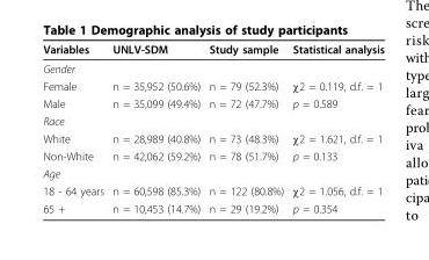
<table><thead><tr><td>Variables</td><td>UNLV-SDM</td><td>Study sample</td><td>Statistical analysis</td></tr></thead><tbody><tr><td colspan="4">Gender</td></tr><tr><td>Female</td><td>n = 35,952 (50.6%)</td><td>n = 79 (52.3%)</td><td>χ2 = 0.119, d.f. = 1</td></tr><tr><td>Male</td><td>n = 35,099 (49.4%)</td><td>n = 72 (47.7%)</td><td>p = 0.589</td></tr><tr><td colspan="4">Race</td></tr><tr><td>White</td><td>n = 28,989 (40.8%)</td><td>n = 73 (48.3%)</td><td>χ2 = 1.621, d.f. = 1</td></tr><tr><td>Non-White</td><td>n = 42,062 (59.2%)</td><td>n = 78 (51.7%)</td><td>p = 0.133</td></tr><tr><td colspan="4">Age</td></tr><tr><td>18 - 64 years</td><td>n = 60,598 (85.3%)</td><td>n = 122 (80.8%)</td><td>χ2 = 1.056, d.f. = 1</td></tr><tr><td>65 +</td><td>n = 10,453 (14.7%)</td><td>n = 29 (19.2%)</td><td>p = 0.354</td></tr></tbody></table>